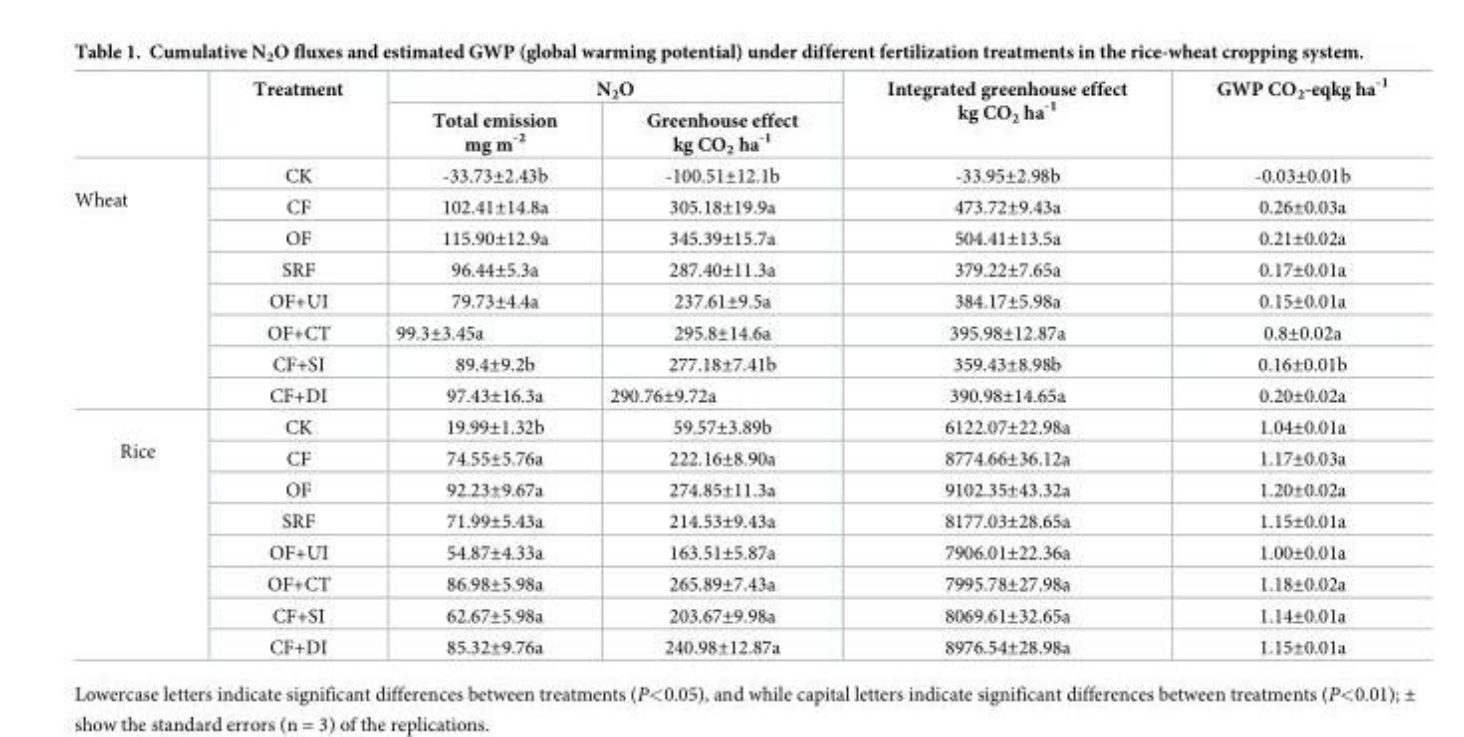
<table><thead><tr><td rowspan="2"></td><td rowspan="2">Treatment</td><td colspan="2">N<sub>2</sub>O</td><td rowspan="2">Integrated greenhouse effect kg CO<sub>2</sub> ha<sup>-1</sup></td><td rowspan="2">GWP CO<sub>2</sub>-eqkg ha<sup>-1</sup></td></tr><tr><td>Total emission mg m<sup>-2</sup></td><td>Greenhouse effect kg CO<sub>2</sub> ha<sup>-1</sup></td></tr></thead><tbody><tr><td rowspan="8">Wheat</td><td>CK</td><td>-33.73±2.43b</td><td>-100.51±12.1b</td><td>-33.95±2.98b</td><td>-0.03±0.01b</td></tr><tr><td>CF</td><td>102.41±14.8a</td><td>305.18±19.9a</td><td>473.72±9.43a</td><td>0.26±0.03a</td></tr><tr><td>OF</td><td>115.90±12.9a</td><td>345.39±15.7a</td><td>504.41±13.5a</td><td>0.21±0.02a</td></tr><tr><td>SRF</td><td>96.44±5.3a</td><td>287.40±11.3a</td><td>379.22±7.65a</td><td>0.17±0.01a</td></tr><tr><td>OF+UI</td><td>79.73±4.4a</td><td>237.61±9.5a</td><td>384.17±5.98a</td><td>0.15±0.01a</td></tr><tr><td>OF+CT</td><td>99.3±3.45a</td><td>295.8±14.6a</td><td>395.98±12.87a</td><td>0.8±0.02a</td></tr><tr><td>CF+SI</td><td>89.4±9.2b</td><td>277.18±7.41b</td><td>359.43±8.98b</td><td>0.16±0.01b</td></tr><tr><td>CF+DI</td><td>97.43±16.3a</td><td>290.76±9.72a</td><td>390.98±14.65a</td><td>0.20±0.02a</td></tr><tr><td rowspan="8">Rice</td><td>CK</td><td>19.99±1.32b</td><td>59.57±3.89b</td><td>6122.07±22.98a</td><td>1.04±0.01a</td></tr><tr><td>CF</td><td>74.55±5.76a</td><td>222.16±8.90a</td><td>8774.66±36.12a</td><td>1.17±0.03a</td></tr><tr><td>OF</td><td>92.23±9.67a</td><td>274.85±11.3a</td><td>9102.35±43.32a</td><td>1.20±0.02a</td></tr><tr><td>SRF</td><td>71.99±5.43a</td><td>214.53±9.43a</td><td>8177.03±28.65a</td><td>1.15±0.01a</td></tr><tr><td>OF+UI</td><td>54.87±4.33a</td><td>163.51±5.87a</td><td>7906.01±22.36a</td><td>1.00±0.01a</td></tr><tr><td>OF+CT</td><td>86.98±5.98a</td><td>265.89±7.43a</td><td>7995.78±27.98a</td><td>1.18±0.02a</td></tr><tr><td>CF+SI</td><td>62.67±5.98a</td><td>203.67±9.98a</td><td>8069.61±32.65a</td><td>1.14±0.01a</td></tr><tr><td>CF+DI</td><td>85.32±9.76a</td><td>240.98±12.87a</td><td>8976.54±28.98a</td><td>1.15±0.01a</td></tr></tbody></table>